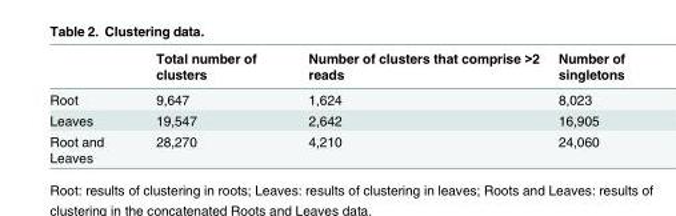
<table><thead><tr><td></td><td>Total number of clusters</td><td>Number of clusters that comprise &gt;2 reads</td><td>Number of singletons</td></tr></thead><tbody><tr><td>Root</td><td>9,647</td><td>1,624</td><td>8,023</td></tr><tr><td>Leaves</td><td>19,547</td><td>2,642</td><td>16,905</td></tr><tr><td>Root and Leaves</td><td>28,270</td><td>4,210</td><td>24,060</td></tr></tbody></table>